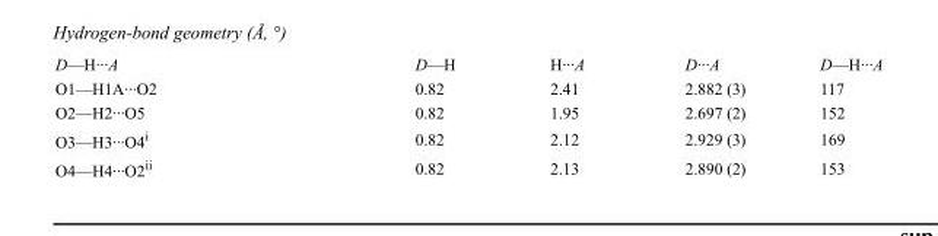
<table><tbody><tr><td>D—H···A</td><td>D—H</td><td>H···A</td><td>D···A</td><td>D—H···A</td></tr><tr><td>O1—H1A···O2</td><td>0.82</td><td>2.41</td><td>2.882 (3)</td><td>117</td></tr><tr><td>O2—H2···O5</td><td>0.82</td><td>1.95</td><td>2.697 (2)</td><td>152</td></tr><tr><td>O3—H3···O4<sup>i</sup></td><td>0.82</td><td>2.12</td><td>2.929 (3)</td><td>169</td></tr><tr><td>O4—H4···O2<sup>ii</sup></td><td>0.82</td><td>2.13</td><td>2.890 (2)</td><td>153</td></tr></tbody></table>